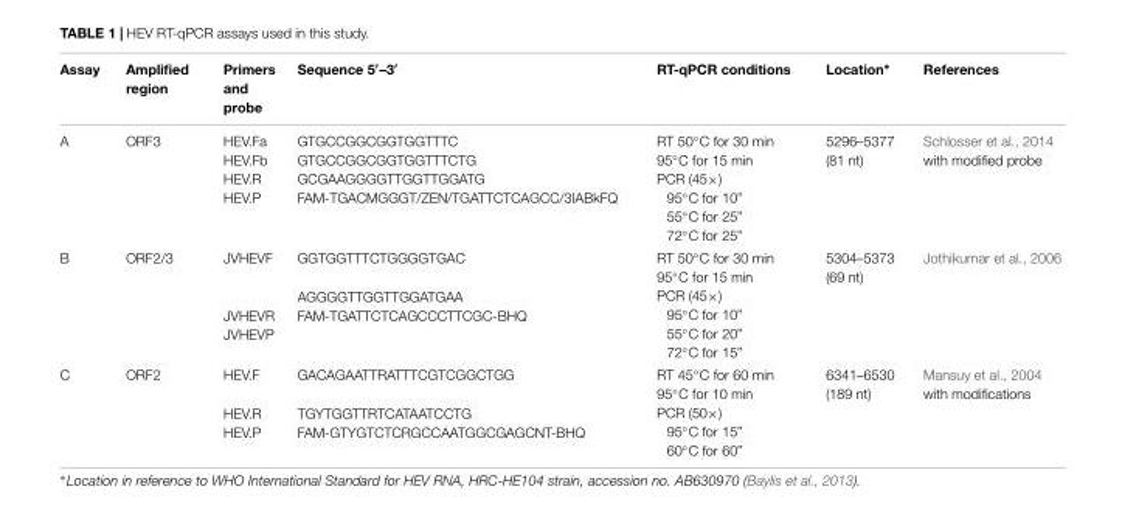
<table><thead><tr><td>Assay</td><td>Amplified region</td><td>Primers and probe</td><td>Sequence 5′–3′</td><td>RT-qPCR conditions</td><td>Location∗</td><td>References</td></tr></thead><tbody><tr><td>A</td><td>ORF3</td><td>HEV.Fa HEV.Fb HEV.R HEV.P</td><td>GTGCCGGCGGTGGTTTC GTGCCGGCGGTGGTTTCTG GCGAAGGGGTTGGTTGGATG FAM-TGACMGGGT/ZEN/TGATTCTCAGCC/3IABkFQ</td><td>RT 50◦C for 30 min 95◦C for 15 min PCR (45×) 95◦C for 10” 55◦C for 25” 72◦C for 25”</td><td>5296–5377 (81 nt)</td><td>Schlosser et al., 2014 with modified probe</td></tr><tr><td>B</td><td>ORF2/3</td><td>JVHEVF JVHEVR JVHEVP</td><td>GGTGGTTTCTGGGGTGAC AGGGGTTGGTTGGATGAA FAM-TGATTCTCAGCCCTTCGC-BHQ</td><td>RT 50◦C for 30 min 95◦C for 15 min PCR (45×) 95◦C for 10” 55◦C for 20” 72◦C for 15”</td><td>5304–5373 (69 nt)</td><td>Jothikumar et al., 2006</td></tr><tr><td>C</td><td>ORF2</td><td>HEV.F HEV.R HEV.P</td><td>GACAGAATTRATTTCGTCGGCTGG TGYTGGTTRTCATAATCCTG FAM-GTYGTCTCRGCCAATGGCGAGCNT-BHQ</td><td>RT 45◦C for 60 min 95◦C for 10 min PCR (50×) 95◦C for 15” 60◦C for 60”</td><td>6341–6530 (189 nt)</td><td>Mansuy et al., 2004 with modifications</td></tr></tbody></table>